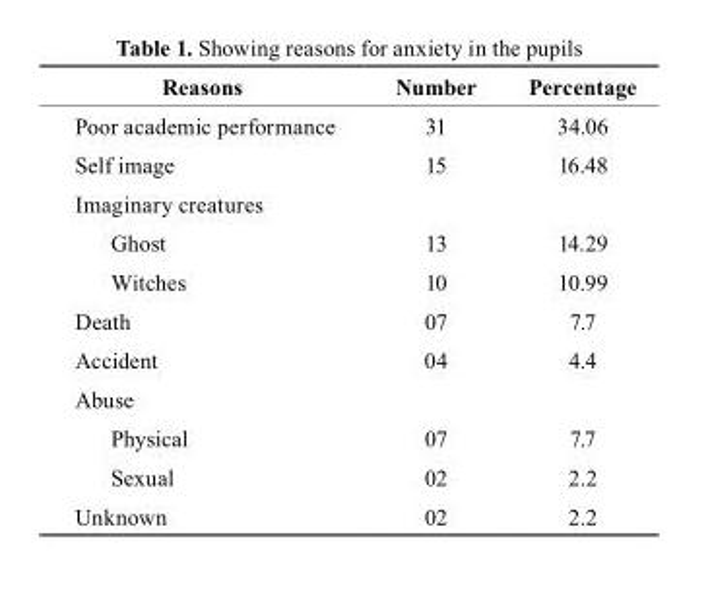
<table><thead><tr><td>reasons</td><td>Number</td><td>Percentage</td></tr></thead><tbody><tr><td>Poor academic performance</td><td>31</td><td>34.06</td></tr><tr><td>Self image</td><td>15</td><td>16.48</td></tr><tr><td colspan="3">Imaginary creatures</td></tr><tr><td>Ghost</td><td>13</td><td>14.29</td></tr><tr><td>Witches</td><td>10</td><td>10.99</td></tr><tr><td>Death</td><td>07</td><td>7.7</td></tr><tr><td>Accident</td><td>04</td><td>4.4</td></tr><tr><td colspan="3">Abuse</td></tr><tr><td>Physical</td><td>07</td><td>7.7</td></tr><tr><td>Sexual</td><td>02</td><td>2.2</td></tr><tr><td>Unknown</td><td>02</td><td>2.2</td></tr></tbody></table>